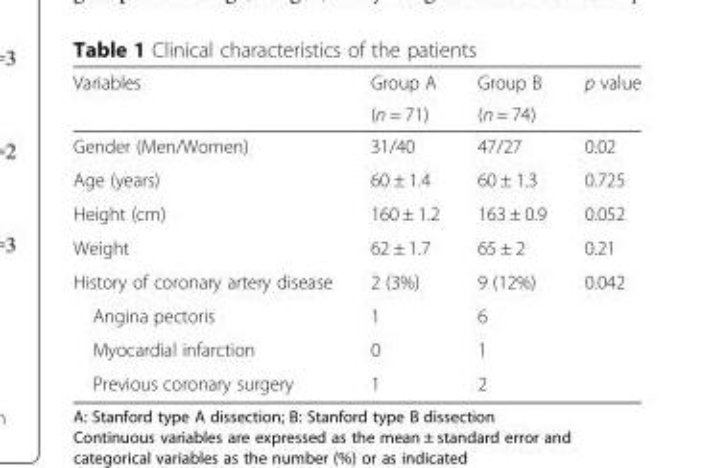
<table><thead><tr><td rowspan="2">Variables</td><td rowspan="2">Group A (n = 71)</td><td rowspan="2">Group B (n = 74)</td><td rowspan="2">p value</td></tr><tr></tr></thead><tbody><tr><td>Gender (Men/Women)</td><td>31/40</td><td>47/27</td><td>0.02</td></tr><tr><td>Age (years)</td><td>60 ± 1.4</td><td>60 ± 1.3</td><td>0.725</td></tr><tr><td>Height (cm)</td><td>160 ± 1.2</td><td>163 ± 0.9</td><td>0.052</td></tr><tr><td>Weight</td><td>62 ± 1.7</td><td>65 ± 2</td><td>0.21</td></tr><tr><td>History of coronary artery disease</td><td>2 (3%)</td><td>9 (12%)</td><td>0.042</td></tr><tr><td>Angina pectoris</td><td>1</td><td>6</td><td></td></tr><tr><td>Myocardial infarction</td><td>0</td><td>1</td><td></td></tr><tr><td>Previous coronary surgery</td><td>1</td><td>2</td><td></td></tr></tbody></table>